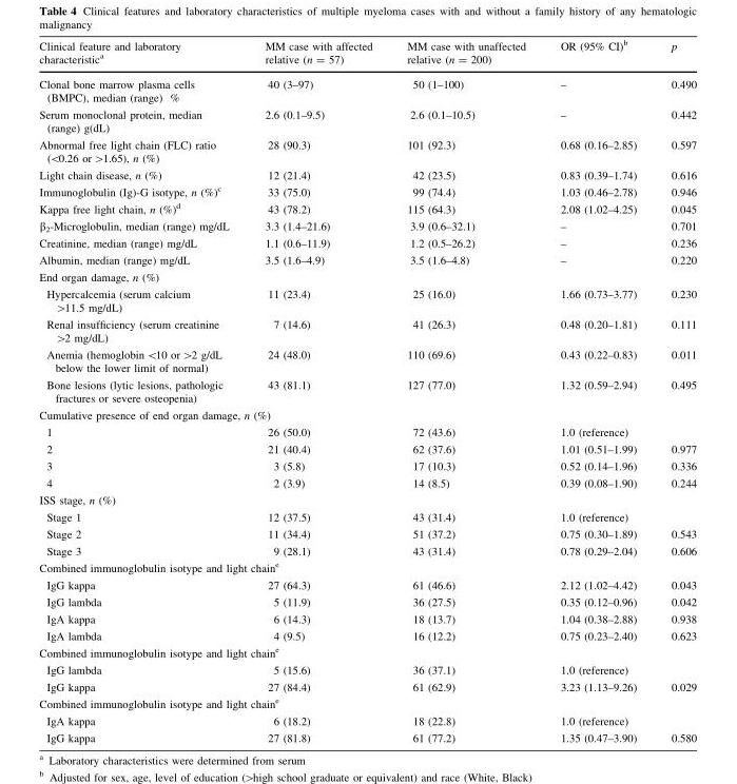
<table><thead><tr><td>Clinical feature and laboratory characteristic<sup>a</sup></td><td>MM case with affected relative (n = 57)</td><td>MM case with unaffected relative (n = 200)</td><td>OR (95% CI)<sup>b</sup></td><td>p</td></tr></thead><tbody><tr><td>Clonal bone marrow plasma cells (BMPC), median (range) %</td><td>40 (3–97)</td><td>50 (1–100)</td><td>–</td><td>0.490</td></tr><tr><td>Serum monoclonal protein, median (range) g(dL)</td><td>2.6 (0.1–9.5)</td><td>2.6 (0.1–10.5)</td><td>–</td><td>0.442</td></tr><tr><td>Abnormal free light chain (FLC) ratio (&lt;0.26 or &gt;1.65), n (%)</td><td>28 (90.3)</td><td>101 (92.3)</td><td>0.68 (0.16–2.85)</td><td>0.597</td></tr><tr><td>Light chain disease, n (%)</td><td>12 (21.4)</td><td>42 (23.5)</td><td>0.83 (0.39–1.74)</td><td>0.616</td></tr><tr><td>Immunoglobulin (Ig)-G isotype, n (%)<sup>c</sup></td><td>33 (75.0)</td><td>99 (74.4)</td><td>1.03 (0.46–2.78)</td><td>0.946</td></tr><tr><td>Kappa free light chain, n (%)<sup>d</sup></td><td>43 (78.2)</td><td>115 (64.3)</td><td>2.08 (1.02–4.25)</td><td>0.045</td></tr><tr><td>β<sub>2</sub>-Microglobulin, median (range) mg/dL</td><td>3.3 (1.4–21.6)</td><td>3.9 (0.6–32.1)</td><td>–</td><td>0.701</td></tr><tr><td>Creatinine, median (range) mg/dL</td><td>1.1 (0.6–11.9)</td><td>1.2 (0.5–26.2)</td><td>–</td><td>0.236</td></tr><tr><td>Albumin, median (range) mg/dL</td><td>3.5 (1.6–4.9)</td><td>3.5 (1.6–4.8)</td><td>–</td><td>0.220</td></tr><tr><td colspan="5">End organ damage, n (%)</td></tr><tr><td>Hypercalcemia (serum calcium &gt;11.5 mg/dL)</td><td>11 (23.4)</td><td>25 (16.0)</td><td>1.66 (0.73–3.77)</td><td>0.230</td></tr><tr><td>Renal insufficiency (serum creatinine &gt;2 mg/dL)</td><td>7 (14.6)</td><td>41 (26.3)</td><td>0.48 (0.20–1.81)</td><td>0.111</td></tr><tr><td>Anemia (hemoglobin &lt;10 or &gt;2 g/dL below the lower limit of normal)</td><td>24 (48.0)</td><td>110 (69.6)</td><td>0.43 (0.22–0.83)</td><td>0.011</td></tr><tr><td>Bone lesions (lytic lesions, pathologic fractures or severe osteopenia)</td><td>43 (81.1)</td><td>127 (77.0)</td><td>1.32 (0.59–2.94)</td><td>0.495</td></tr><tr><td colspan="5">Cumulative presence of end organ damage, n (%)</td></tr><tr><td>1</td><td>26 (50.0)</td><td>72 (43.6)</td><td>1.0 (reference)</td><td></td></tr><tr><td>2</td><td>21 (40.4)</td><td>62 (37.6)</td><td>1.01 (0.51–1.99)</td><td>0.977</td></tr><tr><td>3</td><td>3 (5.8)</td><td>17 (10.3)</td><td>0.52 (0.14–1.96)</td><td>0.336</td></tr><tr><td>4</td><td>2 (3.9)</td><td>14 (8.5)</td><td>0.39 (0.08–1.90)</td><td>0.244</td></tr><tr><td colspan="5">ISS stage, n (%)</td></tr><tr><td>Stage 1</td><td>12 (37.5)</td><td>43 (31.4)</td><td>1.0 (reference)</td><td></td></tr><tr><td>Stage 2</td><td>11 (34.4)</td><td>51 (37.2)</td><td>0.75 (0.30–1.89)</td><td>0.543</td></tr><tr><td>Stage 3</td><td>9 (28.1)</td><td>43 (31.4)</td><td>0.78 (0.29–2.04)</td><td>0.606</td></tr><tr><td colspan="5">Combined immunoglobulin isotype and light chain<sup>e</sup></td></tr><tr><td>IgG kappa</td><td>27 (64.3)</td><td>61 (46.6)</td><td>2.12 (1.02–4.42)</td><td>0.043</td></tr><tr><td>IgG lambda</td><td>5 (11.9)</td><td>36 (27.5)</td><td>0.35 (0.12–0.96)</td><td>0.042</td></tr><tr><td>IgA kappa</td><td>6 (14.3)</td><td>18 (13.7)</td><td>1.04 (0.38–2.88)</td><td>0.938</td></tr><tr><td>IgA lambda</td><td>4 (9.5)</td><td>16 (12.2)</td><td>0.75 (0.23–2.40)</td><td>0.623</td></tr><tr><td colspan="5">Combined immunoglobulin isotype and light chain<sup>e</sup></td></tr><tr><td>IgG lambda</td><td>5 (15.6)</td><td>36 (37.1)</td><td>1.0 (reference)</td><td></td></tr><tr><td>IgG kappa</td><td>27 (84.4)</td><td>61 (62.9)</td><td>3.23 (1.13–9.26)</td><td>0.029</td></tr><tr><td colspan="5">Combined immunoglobulin isotype and light chain<sup>e</sup></td></tr><tr><td>IgA kappa</td><td>6 (18.2)</td><td>18 (22.8)</td><td>1.0 (reference)</td><td></td></tr><tr><td>IgG kappa</td><td>27 (81.8)</td><td>61 (77.2)</td><td>1.35 (0.47–3.90)</td><td>0.580</td></tr></tbody></table>